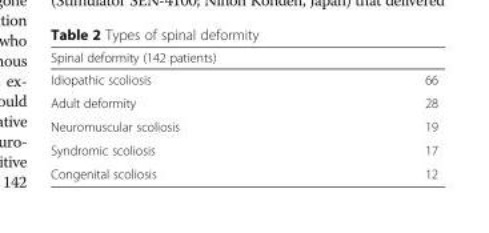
<table><thead><tr><td colspan="2">Spinal deformity (142 patients)</td></tr><tr><td>Idiopathic scoliosis</td><td>66</td></tr></thead><tbody><tr><td>Adult deformity</td><td>28</td></tr><tr><td>Neuromuscular scoliosis</td><td>19</td></tr><tr><td>Syndromic scoliosis</td><td>17</td></tr><tr><td>Congenital scoliosis</td><td>12</td></tr></tbody></table>